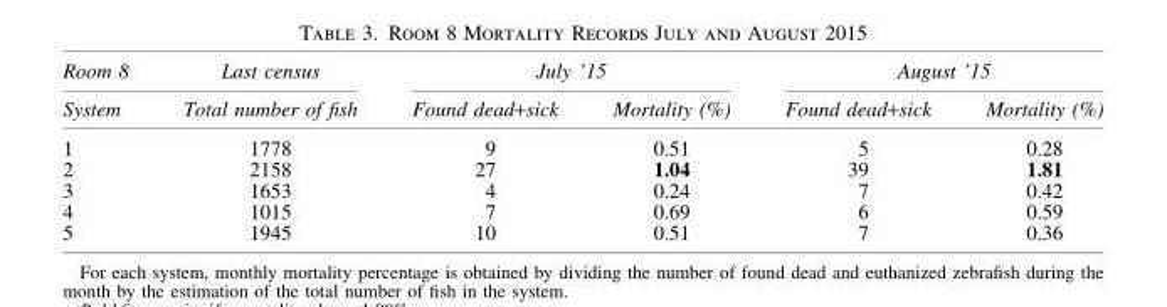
<table><thead><tr><td rowspan="2">Room 8 System</td><td rowspan="2">Last census Total number of fish</td><td colspan="2">July ’15</td><td colspan="2">August ’15</td></tr><tr><td>Found dead+sick</td><td>Mortality (%)</td><td>Found dead+sick</td><td>Mortality (%)</td></tr></thead><tbody><tr><td>1</td><td>1778</td><td>9</td><td>0.51</td><td>5</td><td>0.28</td></tr><tr><td>2</td><td>2158</td><td>27</td><td>1.04</td><td>39</td><td>1.81</td></tr><tr><td>3</td><td>1653</td><td>4</td><td>0.24</td><td>7</td><td>0.42</td></tr><tr><td>4</td><td>1015</td><td>7</td><td>0.69</td><td>6</td><td>0.59</td></tr><tr><td>5</td><td>1945</td><td>10</td><td>0.51</td><td>7</td><td>0.36</td></tr></tbody></table>